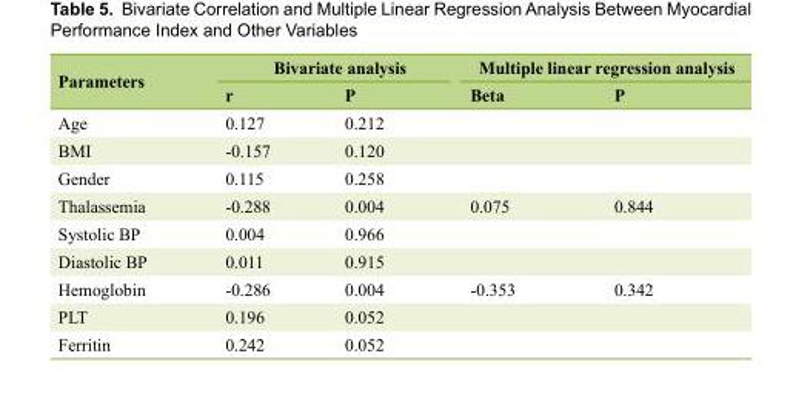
<table><thead><tr><td rowspan="2">Parameters</td><td colspan="2">Bivariate analysis</td><td colspan="2">Multiple linear regression analysis</td></tr><tr><td>r</td><td>P</td><td>Beta</td><td>P</td></tr></thead><tbody><tr><td>Age</td><td>0.127</td><td>0.212</td><td></td><td></td></tr><tr><td>BMI</td><td>-0.157</td><td>0.120</td><td></td><td></td></tr><tr><td>Gender</td><td>0.115</td><td>0.258</td><td></td><td></td></tr><tr><td>Thalassemia</td><td>-0.288</td><td>0.004</td><td>0.075</td><td>0.844</td></tr><tr><td>Systolic BP</td><td>0.004</td><td>0.966</td><td></td><td></td></tr><tr><td>Diastolic BP</td><td>0.011</td><td>0.915</td><td></td><td></td></tr><tr><td>Hemoglobin</td><td>-0.286</td><td>0.004</td><td>-0.353</td><td>0.342</td></tr><tr><td>PLT</td><td>0.196</td><td>0.052</td><td></td><td></td></tr><tr><td>Ferritin</td><td>0.242</td><td>0.052</td><td></td><td></td></tr></tbody></table>